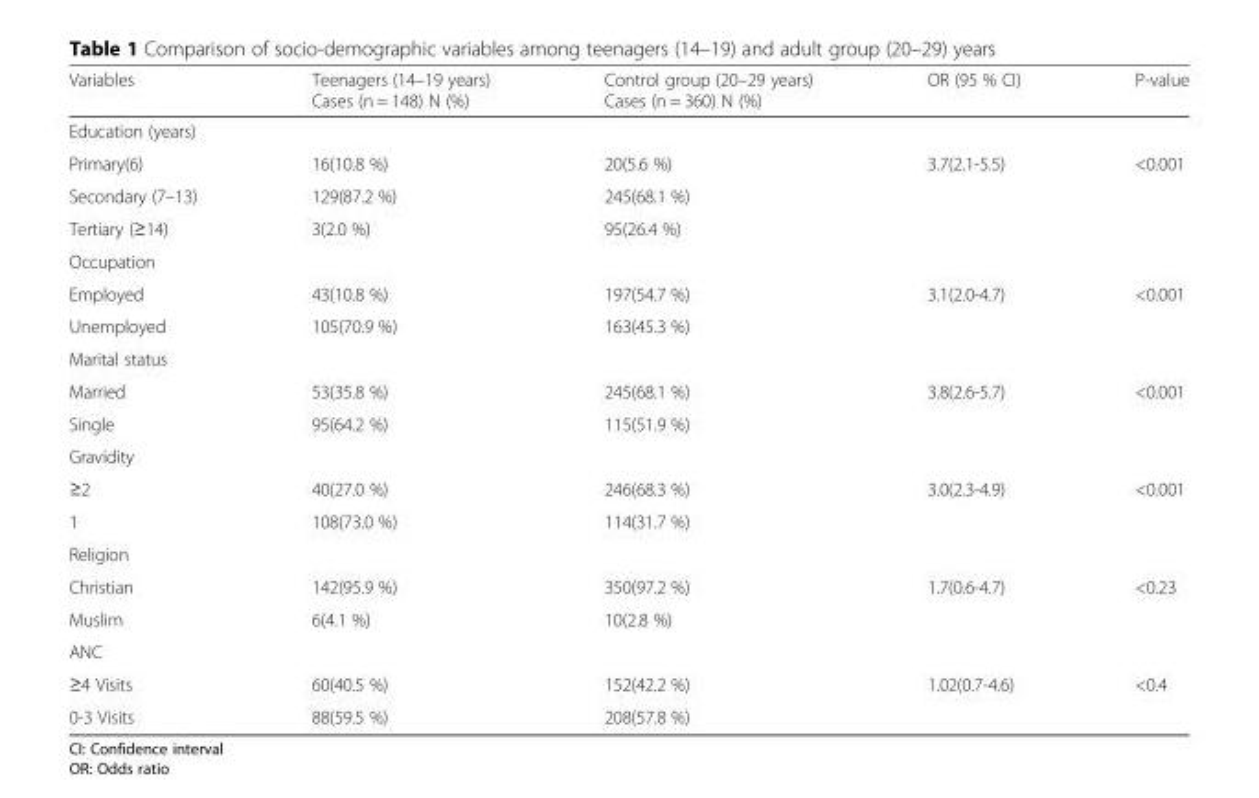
<table><thead><tr><td>Variables</td><td>Teenagers (14–19 years) Cases (n = 148) N (%)</td><td>Control group (20–29 years) Cases (n = 360) N (%)</td><td>OR (95 % CI)</td><td>P-value</td></tr></thead><tbody><tr><td colspan="5">Education (years)</td></tr><tr><td>Primary(6)</td><td>16(10.8 %)</td><td>20(5.6 %)</td><td>3.7(2.1-5.5)</td><td>&lt;0.001</td></tr><tr><td>Secondary (7–13)</td><td>129(87.2 %)</td><td>245(68.1 %)</td><td></td><td></td></tr><tr><td>Tertiary (≥14)</td><td>3(2.0 %)</td><td>95(26.4 %)</td><td></td><td></td></tr><tr><td colspan="5">Occupation</td></tr><tr><td>Employed</td><td>43(10.8 %)</td><td>197(54.7 %)</td><td>3.1(2.0-4.7)</td><td>&lt;0.001</td></tr><tr><td>Unemployed</td><td>105(70.9 %)</td><td>163(45.3 %)</td><td></td><td></td></tr><tr><td colspan="5">Marital status</td></tr><tr><td>Married</td><td>53(35.8 %)</td><td>245(68.1 %)</td><td>3.8(2.6-5.7)</td><td>&lt;0.001</td></tr><tr><td>Single</td><td>95(64.2 %)</td><td>115(51.9 %)</td><td></td><td></td></tr><tr><td colspan="5">Gravidity</td></tr><tr><td>≥2</td><td>40(27.0 %)</td><td>246(68.3 %)</td><td>3.0(2.3-4.9)</td><td>&lt;0.001</td></tr><tr><td>1</td><td>108(73.0 %)</td><td>114(31.7 %)</td><td></td><td></td></tr><tr><td colspan="5">Religion</td></tr><tr><td>Christian</td><td>142(95.9 %)</td><td>350(97.2 %)</td><td>1.7(0.6-4.7)</td><td>&lt;0.23</td></tr><tr><td>Muslim</td><td>6(4.1 %)</td><td>10(2.8 %)</td><td></td><td></td></tr><tr><td colspan="5">ANC</td></tr><tr><td>≥4 Visits</td><td>60(40.5 %)</td><td>152(42.2 %)</td><td>1.02(0.7-4.6)</td><td>&lt;0.4</td></tr><tr><td>0-3 Visits</td><td>88(59.5 %)</td><td>208(57.8 %)</td><td></td><td></td></tr></tbody></table>